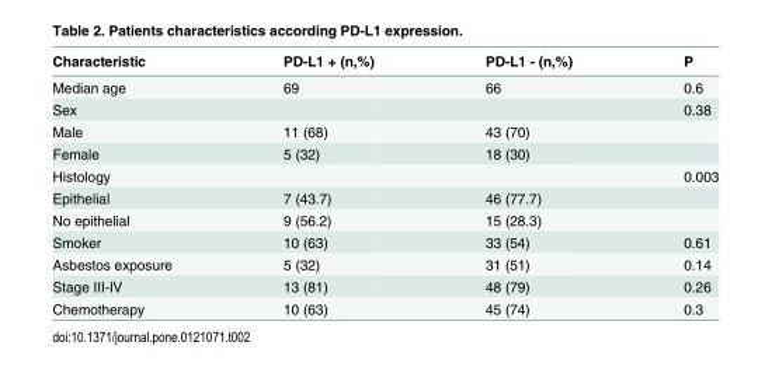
<table><thead><tr><td>Characteristic</td><td>PD-L1 + (n,%)</td><td>PD-L1 - (n,%)</td><td>P</td></tr></thead><tbody><tr><td>Median age</td><td>69</td><td>66</td><td>0.6</td></tr><tr><td>Sex</td><td></td><td></td><td>0.38</td></tr><tr><td>Male</td><td>11 (68)</td><td>43 (70)</td><td></td></tr><tr><td>Female</td><td>5 (32)</td><td>18 (30)</td><td></td></tr><tr><td>Histology</td><td></td><td></td><td>0.003</td></tr><tr><td>Epithelial</td><td>7 (43.7)</td><td>46 (77.7)</td><td></td></tr><tr><td>No epithelial</td><td>9 (56.2)</td><td>15 (28.3)</td><td></td></tr><tr><td>Smoker</td><td>10 (63)</td><td>33 (54)</td><td>0.61</td></tr><tr><td>Asbestos exposure</td><td>5 (32)</td><td>31 (51)</td><td>0.14</td></tr><tr><td>Stage III-IV</td><td>13 (81)</td><td>48 (79)</td><td>0.26</td></tr><tr><td>Chemotherapy</td><td>10 (63)</td><td>45 (74)</td><td>0.3</td></tr></tbody></table>